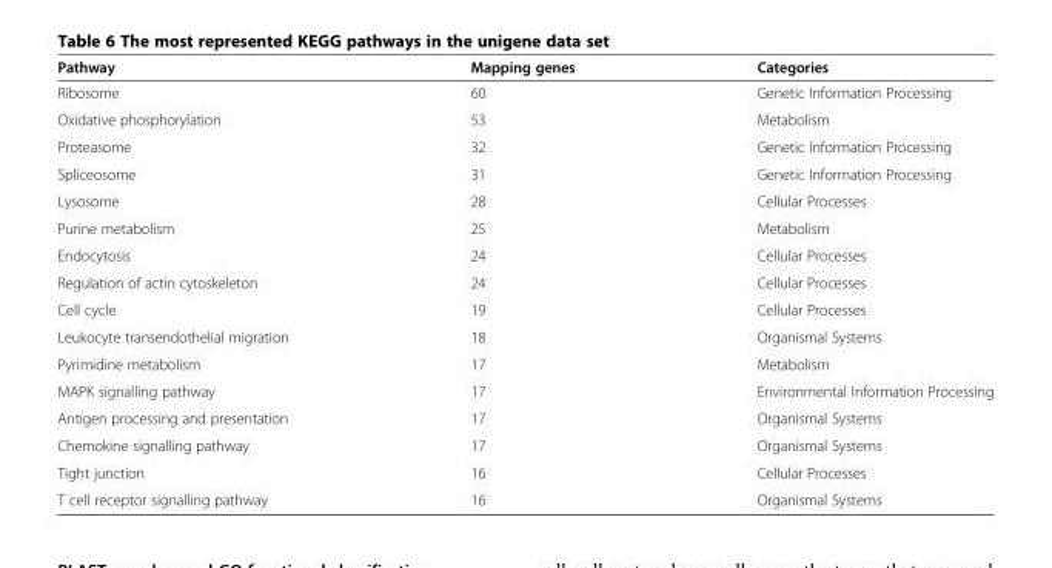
<table><thead><tr><td>Pathway</td><td>Mapping genes</td><td>Categories</td></tr></thead><tbody><tr><td>Ribosome</td><td>60</td><td>Genetic Information Processing</td></tr><tr><td>Oxidative phosphorylation</td><td>53</td><td>Metabolism</td></tr><tr><td>Proteasome</td><td>32</td><td>Genetic Information Processing</td></tr><tr><td>Spliceosome</td><td>31</td><td>Genetic Information Processing</td></tr><tr><td>Lysosome</td><td>28</td><td>Cellular Processes</td></tr><tr><td>Purine metabolism</td><td>25</td><td>Metabolism</td></tr><tr><td>Endocytosis</td><td>24</td><td>Cellular Processes</td></tr><tr><td>Regulation of actin cytoskeleton</td><td>24</td><td>Cellular Processes</td></tr><tr><td>Cell cycle</td><td>19</td><td>Cellular Processes</td></tr><tr><td>Leukocyte transendothelial migration</td><td>18</td><td>Organismal Systems</td></tr><tr><td>Pyrimidine metabolism</td><td>17</td><td>Metabolism</td></tr><tr><td>MAPK signalling pathway</td><td>17</td><td>Environmental Information Processing</td></tr><tr><td>Antigen processing and presentation</td><td>17</td><td>Organismal Systems</td></tr><tr><td>Chemokine signalling pathway</td><td>17</td><td>Organismal Systems</td></tr><tr><td>Tight junction</td><td>16</td><td>Cellular Processes</td></tr><tr><td>T cell receptor signalling pathway</td><td>16</td><td>Organismal Systems</td></tr></tbody></table>